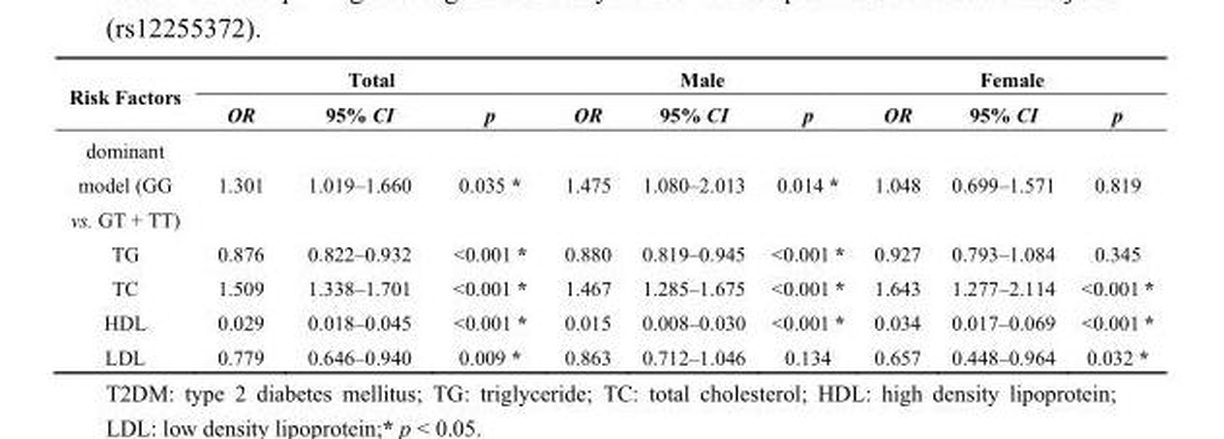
<table><thead><tr><td rowspan="2">Risk Factors</td><td colspan="3">Total</td><td colspan="3">Male</td><td colspan="3">Female</td></tr><tr><td>OR</td><td>95% CI</td><td>p</td><td>OR</td><td>95% CI</td><td>p</td><td>OR</td><td>95% CI</td><td>p</td></tr></thead><tbody><tr><td>dominant model (GG vs. GT + TT)</td><td>1.301</td><td>1.019–1.660</td><td>0.035 *</td><td>1.475</td><td>1.080–2.013</td><td>0.014 *</td><td>1.048</td><td>0.699–1.571</td><td>0.819</td></tr><tr><td>TG</td><td>0.876</td><td>0.822–0.932</td><td>&lt;0.001 *</td><td>0.880</td><td>0.819–0.945</td><td>&lt;0.001 *</td><td>0.927</td><td>0.793–1.084</td><td>0.345</td></tr><tr><td>TC</td><td>1.509</td><td>1.338–1.701</td><td>&lt;0.001 *</td><td>1.467</td><td>1.285–1.675</td><td>&lt;0.001 *</td><td>1.643</td><td>1.277–2.114</td><td>&lt;0.001 *</td></tr><tr><td>HDL</td><td>0.029</td><td>0.018–0.045</td><td>&lt;0.001 *</td><td>0.015</td><td>0.008–0.030</td><td>&lt;0.001 *</td><td>0.034</td><td>0.017–0.069</td><td>&lt;0.001 *</td></tr><tr><td>LDL</td><td>0.779</td><td>0.646–0.940</td><td>0.009 *</td><td>0.863</td><td>0.712–1.046</td><td>0.134</td><td>0.657</td><td>0.448–0.964</td><td>0.032 *</td></tr></tbody></table>